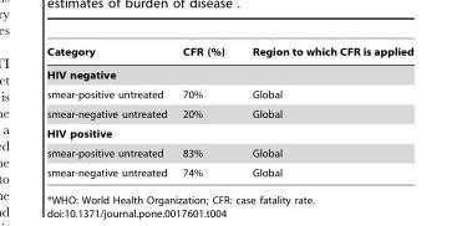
<table><thead><tr><td>Category</td><td>CFR (%)</td><td>Region to which CFR is applied</td></tr></thead><tbody><tr><td colspan="3">HIV negative</td></tr><tr><td>smear-positive untreated</td><td>70%</td><td>Global</td></tr><tr><td>smear-negative untreated</td><td>20%</td><td>Global</td></tr><tr><td colspan="3">HIV positive</td></tr><tr><td>smear-positive untreated</td><td>83%</td><td>Global</td></tr><tr><td>smear-negative untreated</td><td>74%</td><td>Global</td></tr></tbody></table>